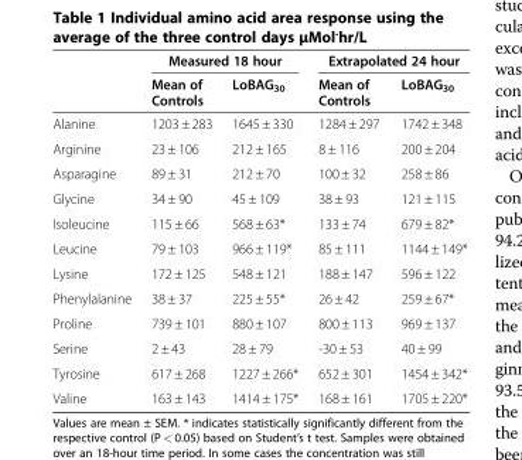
<table><thead><tr><td rowspan="2"></td><td colspan="2">Measured 18 hour</td><td colspan="2">Extrapolated 24 hour</td></tr><tr><td>Mean of Controls</td><td>LoBAG<sub>30</sub></td><td>Mean of Controls</td><td>LoBAG<sub>30</sub></td></tr></thead><tbody><tr><td>Alanine</td><td>1203 ± 283</td><td>1645 ± 330</td><td>1284 ± 297</td><td>1742 ± 348</td></tr><tr><td>Arginine</td><td>23 ± 106</td><td>212 ± 165</td><td>8 ± 116</td><td>200 ± 204</td></tr><tr><td>Asparagine</td><td>89 ± 31</td><td>212 ± 70</td><td>100 ± 32</td><td>258 ± 86</td></tr><tr><td>Glycine</td><td>34 ± 90</td><td>45 ± 109</td><td>38 ± 93</td><td>121 ± 115</td></tr><tr><td>Isoleucine</td><td>115 ± 66</td><td>568 ± 63*</td><td>133 ± 74</td><td>679 ± 82*</td></tr><tr><td>Leucine</td><td>79 ± 103</td><td>966 ± 119*</td><td>85 ± 111</td><td>1144 ± 149*</td></tr><tr><td>Lysine</td><td>172 ± 125</td><td>548 ± 121</td><td>188 ± 147</td><td>596 ± 122</td></tr><tr><td>Phenylalanine</td><td>38 ± 37</td><td>225 ± 55*</td><td>26 ± 42</td><td>259 ± 67*</td></tr><tr><td>Proline</td><td>739 ± 101</td><td>880 ± 107</td><td>800 ± 113</td><td>969 ± 137</td></tr><tr><td>Serine</td><td>2 ± 43</td><td>28 ± 79</td><td>-30 ± 53</td><td>40 ± 99</td></tr><tr><td>Tyrosine</td><td>617 ± 268</td><td>1227 ± 266*</td><td>652 ± 301</td><td>1454 ± 342*</td></tr><tr><td>Valine</td><td>163 ± 143</td><td>1414 ± 175*</td><td>168 ± 161</td><td>1705 ± 220*</td></tr></tbody></table>